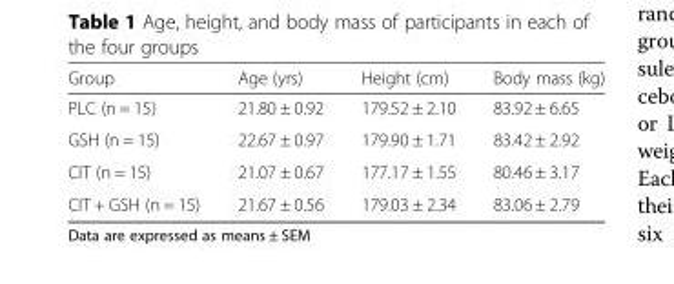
<table><thead><tr><td>Group</td><td>Age (yrs)</td><td>Height (cm)</td><td>Body mass (kg)</td></tr></thead><tbody><tr><td>PLC (n = 15)</td><td>21.80 ± 0.92</td><td>179.52 ± 2.10</td><td>83.92 ± 6.65</td></tr><tr><td>GSH (n = 15)</td><td>22.67 ± 0.97</td><td>179.90 ± 1.71</td><td>83.42 ± 2.92</td></tr><tr><td>CIT (n = 15)</td><td>21.07 ± 0.67</td><td>177.17 ± 1.55</td><td>80.46 ± 3.17</td></tr><tr><td>CIT + GSH (n = 15)</td><td>21.67 ± 0.56</td><td>179.03 ± 2.34</td><td>83.06 ± 2.79</td></tr></tbody></table>